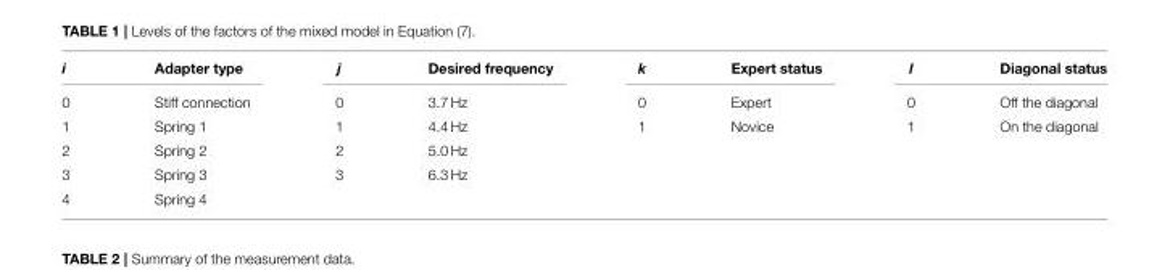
<table><thead><tr><td>i</td><td>Adapter type</td><td>j</td><td>Desired frequency</td><td>k</td><td>Expert status</td><td>l</td><td>Diagonal status</td></tr></thead><tbody><tr><td>0</td><td>Stiff connection</td><td>0</td><td>3.7 Hz</td><td>0</td><td>Expert</td><td>0</td><td>Off the diagonal</td></tr><tr><td>1</td><td>Spring 1</td><td>1</td><td>4.4 Hz</td><td>1</td><td>Novice</td><td>1</td><td>On the diagonal</td></tr><tr><td>2</td><td>Spring 2</td><td>2</td><td>5.0 Hz</td><td></td><td></td><td></td><td></td></tr><tr><td>3</td><td>Spring 3</td><td>3</td><td>6.3 Hz</td><td></td><td></td><td></td><td></td></tr><tr><td>4</td><td>Spring 4</td><td></td><td></td><td></td><td></td><td></td><td></td></tr></tbody></table>